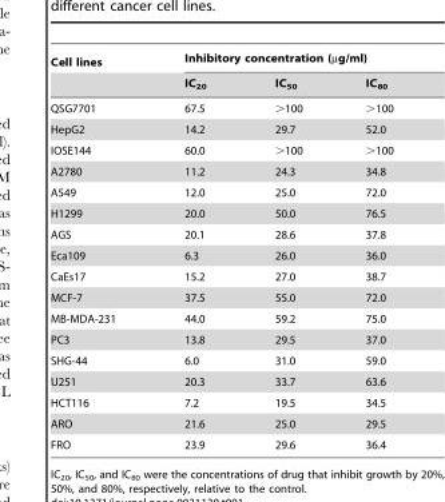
<table><thead><tr><td rowspan="2">Cell lines</td><td colspan="3">Inhibitory concentration (µg/ml)</td></tr><tr><td>IC<sub>20</sub></td><td>IC<sub>50</sub></td><td>IC<sub>80</sub></td></tr></thead><tbody><tr><td>QSG7701</td><td>67.5</td><td>&gt;100</td><td>&gt;100</td></tr><tr><td>HepG2</td><td>14.2</td><td>29.7</td><td>52.0</td></tr><tr><td>IOSE144</td><td>60.0</td><td>&gt;100</td><td>&gt;100</td></tr><tr><td>A2780</td><td>11.2</td><td>24.3</td><td>34.8</td></tr><tr><td>A549</td><td>12.0</td><td>25.0</td><td>72.0</td></tr><tr><td>H1299</td><td>20.0</td><td>50.0</td><td>76.5</td></tr><tr><td>AGS</td><td>20.1</td><td>28.6</td><td>37.8</td></tr><tr><td>Eca109</td><td>6.3</td><td>26.0</td><td>36.0</td></tr><tr><td>CaEs17</td><td>15.2</td><td>27.0</td><td>38.7</td></tr><tr><td>MCF-7</td><td>37.5</td><td>55.0</td><td>72.0</td></tr><tr><td>MB-MDA-231</td><td>44.0</td><td>59.2</td><td>75.0</td></tr><tr><td>PC3</td><td>13.8</td><td>29.5</td><td>37.0</td></tr><tr><td>SHG-44</td><td>6.0</td><td>31.0</td><td>59.0</td></tr><tr><td>U251</td><td>20.3</td><td>33.7</td><td>63.6</td></tr><tr><td>HCT116</td><td>7.2</td><td>19.5</td><td>34.5</td></tr><tr><td>ARO</td><td>21.6</td><td>25.0</td><td>29.5</td></tr><tr><td>FRO</td><td>23.9</td><td>29.6</td><td>36.4</td></tr></tbody></table>